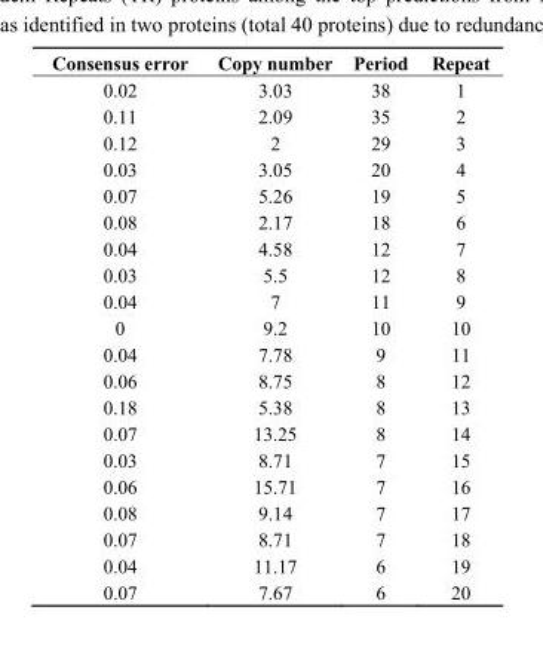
<table><thead><tr><td>Consensus error</td><td>Copy number</td><td>Period</td><td>Repeat</td></tr></thead><tbody><tr><td>0.02</td><td>3.03</td><td>38</td><td>1</td></tr><tr><td>0.11</td><td>2.09</td><td>35</td><td>2</td></tr><tr><td>0.12</td><td>2</td><td>29</td><td>3</td></tr><tr><td>0.03</td><td>3.05</td><td>20</td><td>4</td></tr><tr><td>0.07</td><td>5.26</td><td>19</td><td>5</td></tr><tr><td>0.08</td><td>2.17</td><td>18</td><td>6</td></tr><tr><td>0.04</td><td>4.58</td><td>12</td><td>7</td></tr><tr><td>0.03</td><td>5.5</td><td>12</td><td>8</td></tr><tr><td>0.04</td><td>7</td><td>11</td><td>9</td></tr><tr><td>0</td><td>9.2</td><td>10</td><td>10</td></tr><tr><td>0.04</td><td>7.78</td><td>9</td><td>11</td></tr><tr><td>0.06</td><td>8.75</td><td>8</td><td>12</td></tr><tr><td>0.18</td><td>5.38</td><td>8</td><td>13</td></tr><tr><td>0.07</td><td>13.25</td><td>8</td><td>14</td></tr><tr><td>0.03</td><td>8.71</td><td>7</td><td>15</td></tr><tr><td>0.06</td><td>15.71</td><td>7</td><td>16</td></tr><tr><td>0.08</td><td>9.14</td><td>7</td><td>17</td></tr><tr><td>0.07</td><td>8.71</td><td>7</td><td>18</td></tr><tr><td>0.04</td><td>11.17</td><td>6</td><td>19</td></tr><tr><td>0.07</td><td>7.67</td><td>6</td><td>20</td></tr></tbody></table>